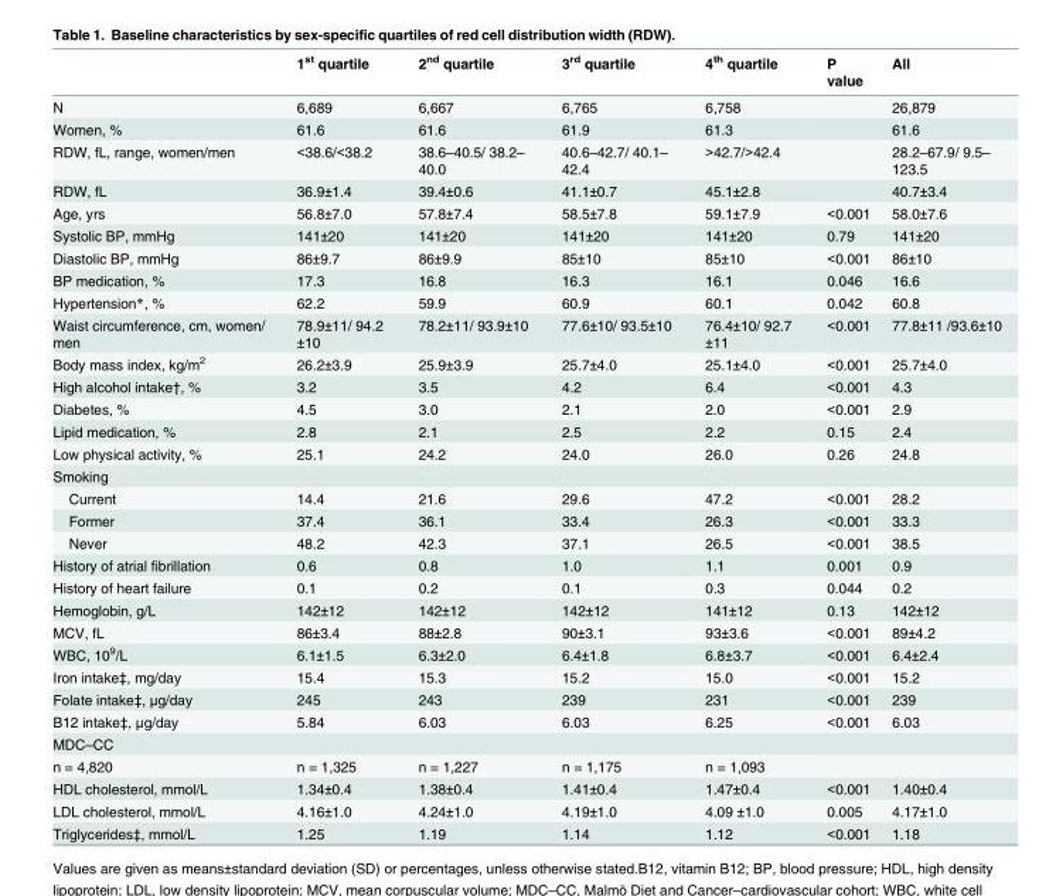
<table><thead><tr><td></td><td>1<sup>st</sup> quartile</td><td>2<sup>nd</sup> quartile</td><td>3<sup>rd</sup> quartile</td><td>4<sup>th</sup> quartile</td><td>P value</td><td>All</td></tr></thead><tbody><tr><td>N</td><td>6,689</td><td>6,667</td><td>6,765</td><td>6,758</td><td></td><td>26,879</td></tr><tr><td>Women, %</td><td>61.6</td><td>61.6</td><td>61.9</td><td>61.3</td><td></td><td>61.6</td></tr><tr><td>RDW, fL, range, women/men</td><td>&lt;38.6/&lt;38.2</td><td>38.6–40.5/ 38.2– 40.0</td><td>40.6–42.7/ 40.1– 42.4</td><td>&gt;42.7/&gt;42.4</td><td></td><td>28.2–67.9/ 9.5– 123.5</td></tr><tr><td>RDW, fL</td><td>36.9±1.4</td><td>39.4±0.6</td><td>41.1±0.7</td><td>45.1±2.8</td><td></td><td>40.7±3.4</td></tr><tr><td>Age, yrs</td><td>56.8±7.0</td><td>57.8±7.4</td><td>58.5±7.8</td><td>59.1±7.9</td><td>&lt;0.001</td><td>58.0±7.6</td></tr><tr><td>Systolic BP, mmHg</td><td>141±20</td><td>141±20</td><td>141±20</td><td>141±20</td><td>0.79</td><td>141±20</td></tr><tr><td>Diastolic BP, mmHg</td><td>86±9.7</td><td>86±9.9</td><td>85±10</td><td>85±10</td><td>&lt;0.001</td><td>86±10</td></tr><tr><td>BP medication, %</td><td>17.3</td><td>16.8</td><td>16.3</td><td>16.1</td><td>0.046</td><td>16.6</td></tr><tr><td>Hypertension*, %</td><td>62.2</td><td>59.9</td><td>60.9</td><td>60.1</td><td>0.042</td><td>60.8</td></tr><tr><td>Waist circumference, cm, women/ men</td><td>78.9±11/ 94.2 ±10</td><td>78.2±11/ 93.9±10</td><td>77.6±10/ 93.5±10</td><td>76.4±10/ 92.7 ±11</td><td>&lt;0.001</td><td>77.8±11 /93.6±10</td></tr><tr><td>Body mass index, kg/m<sup>2</sup></td><td>26.2±3.9</td><td>25.9±3.9</td><td>25.7±4.0</td><td>25.1±4.0</td><td>&lt;0.001</td><td>25.7±4.0</td></tr><tr><td>High alcohol intake†, %</td><td>3.2</td><td>3.5</td><td>4.2</td><td>6.4</td><td>&lt;0.001</td><td>4.3</td></tr><tr><td>Diabetes, %</td><td>4.5</td><td>3.0</td><td>2.1</td><td>2.0</td><td>&lt;0.001</td><td>2.9</td></tr><tr><td>Lipid medication, %</td><td>2.8</td><td>2.1</td><td>2.5</td><td>2.2</td><td>0.15</td><td>2.4</td></tr><tr><td>Low physical activity, %</td><td>25.1</td><td>24.2</td><td>24.0</td><td>26.0</td><td>0.26</td><td>24.8</td></tr><tr><td colspan="7">Smoking</td></tr><tr><td>Current</td><td>14.4</td><td>21.6</td><td>29.6</td><td>47.2</td><td>&lt;0.001</td><td>28.2</td></tr><tr><td>Former</td><td>37.4</td><td>36.1</td><td>33.4</td><td>26.3</td><td>&lt;0.001</td><td>33.3</td></tr><tr><td>Never</td><td>48.2</td><td>42.3</td><td>37.1</td><td>26.5</td><td>&lt;0.001</td><td>38.5</td></tr><tr><td>History of atrial fibrillation</td><td>0.6</td><td>0.8</td><td>1.0</td><td>1.1</td><td>0.001</td><td>0.9</td></tr><tr><td>History of heart failure</td><td>0.1</td><td>0.2</td><td>0.1</td><td>0.3</td><td>0.044</td><td>0.2</td></tr><tr><td>Hemoglobin, g/L</td><td>142±12</td><td>142±12</td><td>142±12</td><td>141±12</td><td>0.13</td><td>142±12</td></tr><tr><td>MCV, fL</td><td>86±3.4</td><td>88±2.8</td><td>90±3.1</td><td>93±3.6</td><td>&lt;0.001</td><td>89±4.2</td></tr><tr><td>WBC, 10<sup>9</sup>/L</td><td>6.1±1.5</td><td>6.3±2.0</td><td>6.4±1.8</td><td>6.8±3.7</td><td>&lt;0.001</td><td>6.4±2.4</td></tr><tr><td>Iron intake‡, mg/day</td><td>15.4</td><td>15.3</td><td>15.2</td><td>15.0</td><td>&lt;0.001</td><td>15.2</td></tr><tr><td>Folate intake‡, μg/day</td><td>245</td><td>243</td><td>239</td><td>231</td><td>&lt;0.001</td><td>239</td></tr><tr><td>B12 intake‡, μg/day</td><td>5.84</td><td>6.03</td><td>6.03</td><td>6.25</td><td>&lt;0.001</td><td>6.03</td></tr><tr><td colspan="7">MDC–CC</td></tr><tr><td>n = 4,820</td><td>n = 1,325</td><td>n = 1,227</td><td>n = 1,175</td><td>n = 1,093</td><td></td><td></td></tr><tr><td>HDL cholesterol, mmol/L</td><td>1.34±0.4</td><td>1.38±0.4</td><td>1.41±0.4</td><td>1.47±0.4</td><td>&lt;0.001</td><td>1.40±0.4</td></tr><tr><td>LDL cholesterol, mmol/L</td><td>4.16±1.0</td><td>4.24±1.0</td><td>4.19±1.0</td><td>4.09 ±1.0</td><td>0.005</td><td>4.17±1.0</td></tr><tr><td>Triglycerides‡, mmol/L</td><td>1.25</td><td>1.19</td><td>1.14</td><td>1.12</td><td>&lt;0.001</td><td>1.18</td></tr></tbody></table>